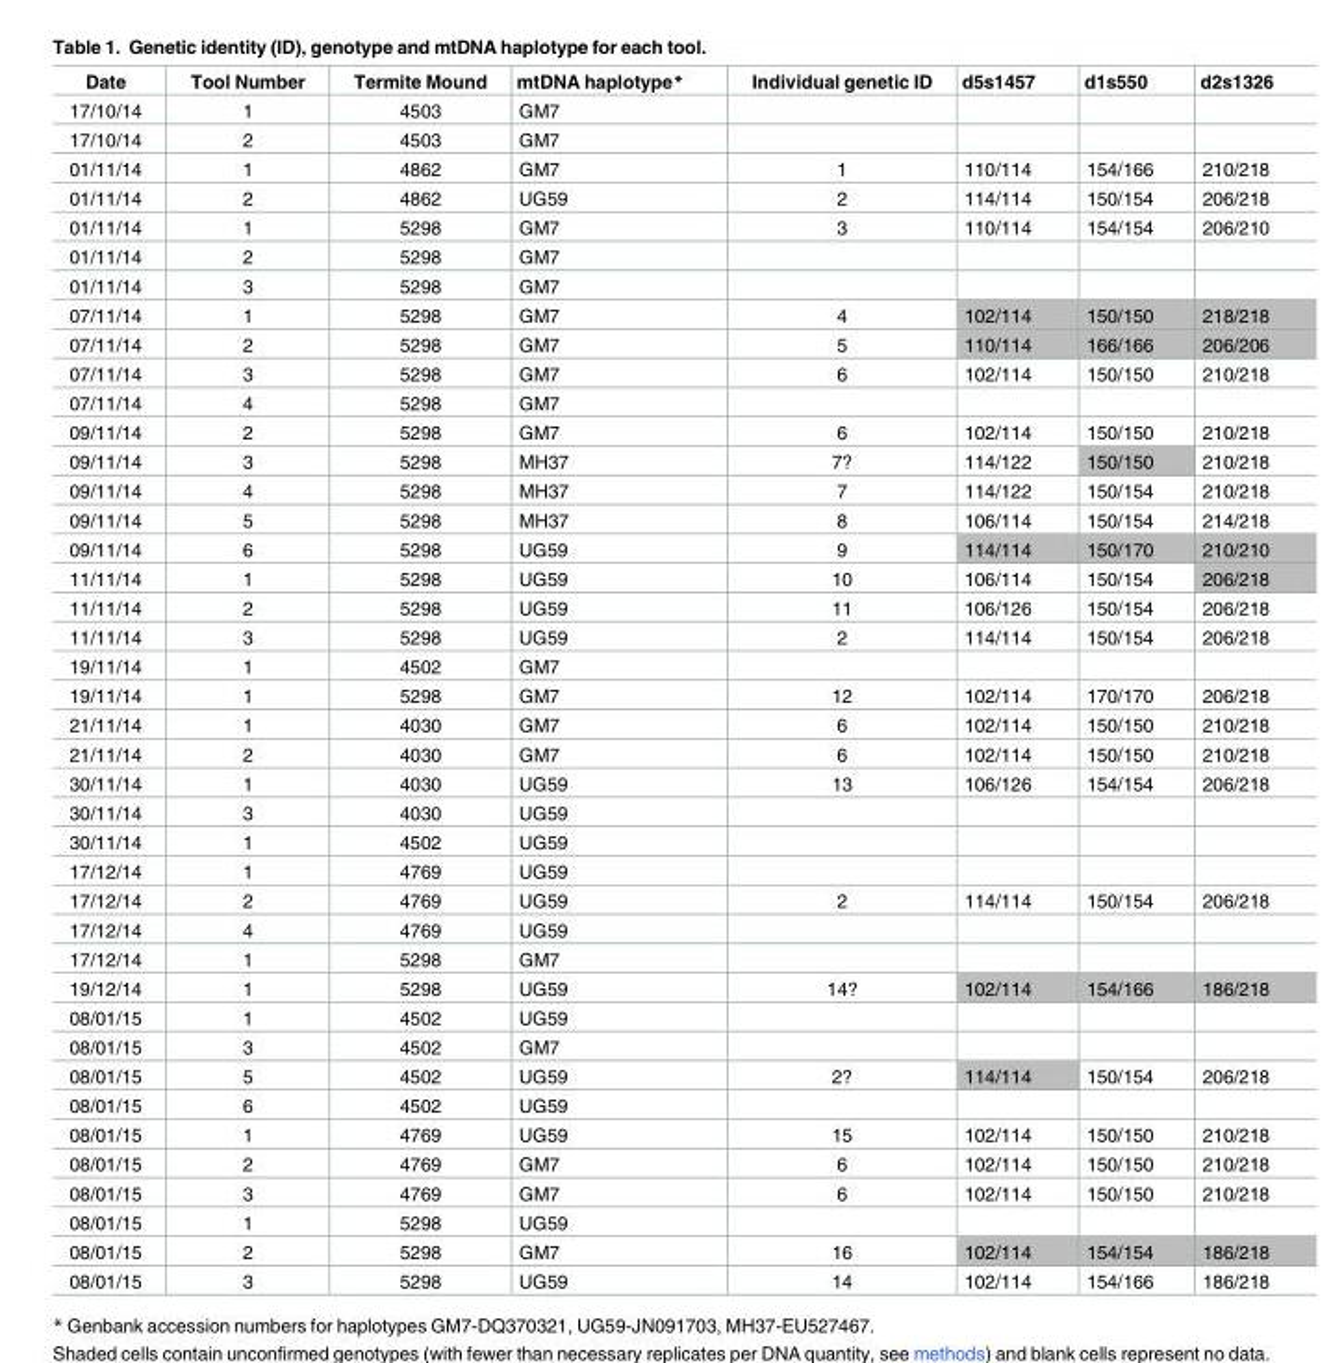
<table><thead><tr><td>Date</td><td>Tool Number</td><td>Termite Mound</td><td>mtDNA haplotype*</td><td>Individual genetic ID</td><td>d5s1457</td><td>d1s550</td><td>d2s1326</td></tr></thead><tbody><tr><td>17/10/14</td><td>1</td><td>4503</td><td>GM7</td><td></td><td></td><td></td><td></td></tr><tr><td>17/10/14</td><td>2</td><td>4503</td><td>GM7</td><td></td><td></td><td></td><td></td></tr><tr><td>01/11/14</td><td>1</td><td>4862</td><td>GM7</td><td>1</td><td>110/114</td><td>154/166</td><td>210/218</td></tr><tr><td>01/11/14</td><td>2</td><td>4862</td><td>UG59</td><td>2</td><td>114/114</td><td>150/154</td><td>206/218</td></tr><tr><td>01/11/14</td><td>1</td><td>5298</td><td>GM7</td><td>3</td><td>110/114</td><td>154/154</td><td>206/210</td></tr><tr><td>01/11/14</td><td>2</td><td>5298</td><td>GM7</td><td></td><td></td><td></td><td></td></tr><tr><td>01/11/14</td><td>3</td><td>5298</td><td>GM7</td><td></td><td></td><td></td><td></td></tr><tr><td>07/11/14</td><td>1</td><td>5298</td><td>GM7</td><td>4</td><td>102/114</td><td>150/150</td><td>218/218</td></tr><tr><td>07/11/14</td><td>2</td><td>5298</td><td>GM7</td><td>5</td><td>110/114</td><td>166/166</td><td>206/206</td></tr><tr><td>07/11/14</td><td>3</td><td>5298</td><td>GM7</td><td>6</td><td>102/114</td><td>150/150</td><td>210/218</td></tr><tr><td>07/11/14</td><td>4</td><td>5298</td><td>GM7</td><td></td><td></td><td></td><td></td></tr><tr><td>09/11/14</td><td>2</td><td>5298</td><td>GM7</td><td>6</td><td>102/114</td><td>150/150</td><td>210/218</td></tr><tr><td>09/11/14</td><td>3</td><td>5298</td><td>MH37</td><td>7?</td><td>114/122</td><td>150/150</td><td>210/218</td></tr><tr><td>09/11/14</td><td>4</td><td>5298</td><td>MH37</td><td>7</td><td>114/122</td><td>150/154</td><td>210/218</td></tr><tr><td>09/11/14</td><td>5</td><td>5298</td><td>MH37</td><td>8</td><td>106/114</td><td>150/154</td><td>214/218</td></tr><tr><td>09/11/14</td><td>6</td><td>5298</td><td>UG59</td><td>9</td><td>114/114</td><td>150/170</td><td>210/210</td></tr><tr><td>11/11/14</td><td>1</td><td>5298</td><td>UG59</td><td>10</td><td>106/114</td><td>150/154</td><td>206/218</td></tr><tr><td>11/11/14</td><td>2</td><td>5298</td><td>UG59</td><td>11</td><td>106/126</td><td>150/154</td><td>206/218</td></tr><tr><td>11/11/14</td><td>3</td><td>5298</td><td>UG59</td><td>2</td><td>114/114</td><td>150/154</td><td>206/218</td></tr><tr><td>19/11/14</td><td>1</td><td>4502</td><td>GM7</td><td></td><td></td><td></td><td></td></tr><tr><td>19/11/14</td><td>1</td><td>5298</td><td>GM7</td><td>12</td><td>102/114</td><td>170/170</td><td>206/218</td></tr><tr><td>21/11/14</td><td>1</td><td>4030</td><td>GM7</td><td>6</td><td>102/114</td><td>150/150</td><td>210/218</td></tr><tr><td>21/11/14</td><td>2</td><td>4030</td><td>GM7</td><td>6</td><td>102/114</td><td>150/150</td><td>210/218</td></tr><tr><td>30/11/14</td><td>1</td><td>4030</td><td>UG59</td><td>13</td><td>106/126</td><td>154/154</td><td>206/218</td></tr><tr><td>30/11/14</td><td>3</td><td>4030</td><td>UG59</td><td></td><td></td><td></td><td></td></tr><tr><td>30/11/14</td><td>1</td><td>4502</td><td>UG59</td><td></td><td></td><td></td><td></td></tr><tr><td>17/12/14</td><td>1</td><td>4769</td><td>UG59</td><td></td><td></td><td></td><td></td></tr><tr><td>17/12/14</td><td>2</td><td>4769</td><td>UG59</td><td>2</td><td>114/114</td><td>150/154</td><td>206/218</td></tr><tr><td>17/12/14</td><td>4</td><td>4769</td><td>UG59</td><td></td><td></td><td></td><td></td></tr><tr><td>17/12/14</td><td>1</td><td>5298</td><td>GM7</td><td></td><td></td><td></td><td></td></tr><tr><td>19/12/14</td><td>1</td><td>5298</td><td>UG59</td><td>14?</td><td>102/114</td><td>154/166</td><td>186/218</td></tr><tr><td>08/01/15</td><td>1</td><td>4502</td><td>UG59</td><td></td><td></td><td></td><td></td></tr><tr><td>08/01/15</td><td>3</td><td>4502</td><td>GM7</td><td></td><td></td><td></td><td></td></tr><tr><td>08/01/15</td><td>5</td><td>4502</td><td>UG59</td><td>2?</td><td>114/114</td><td>150/154</td><td>206/218</td></tr><tr><td>08/01/15</td><td>6</td><td>4502</td><td>UG59</td><td></td><td></td><td></td><td></td></tr><tr><td>08/01/15</td><td>1</td><td>4769</td><td>UG59</td><td>15</td><td>102/114</td><td>150/150</td><td>210/218</td></tr><tr><td>08/01/15</td><td>2</td><td>4769</td><td>GM7</td><td>6</td><td>102/114</td><td>150/150</td><td>210/218</td></tr><tr><td>08/01/15</td><td>3</td><td>4769</td><td>GM7</td><td>6</td><td>102/114</td><td>150/150</td><td>210/218</td></tr><tr><td>08/01/15</td><td>1</td><td>5298</td><td>UG59</td><td></td><td></td><td></td><td></td></tr><tr><td>08/01/15</td><td>2</td><td>5298</td><td>GM7</td><td>16</td><td>102/114</td><td>154/154</td><td>186/218</td></tr><tr><td>08/01/15</td><td>3</td><td>5298</td><td>UG59</td><td>14</td><td>102/114</td><td>154/166</td><td>186/218</td></tr></tbody></table>